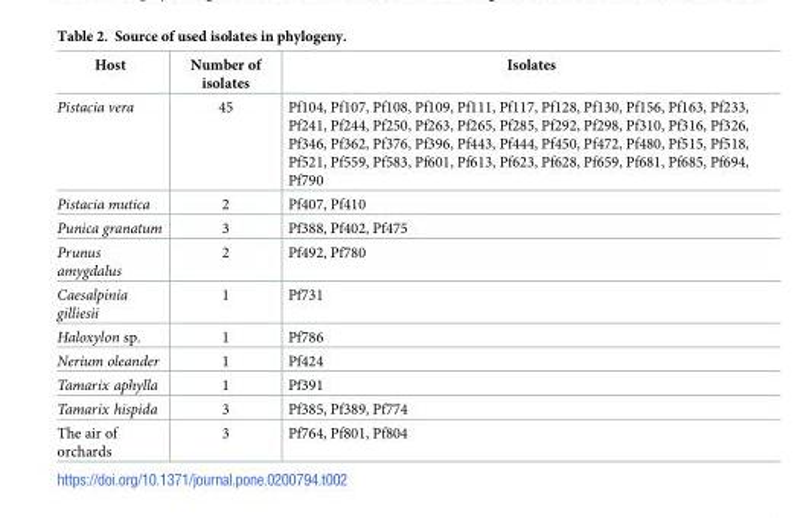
<table><thead><tr><td>Host</td><td>Number of isolates</td><td>Isolates</td></tr></thead><tbody><tr><td>Pistacia vera</td><td>45</td><td>Pf104, Pf107, Pf108, Pf109, Pf111, Pf117, Pf128, Pf130, Pf156, Pf163, Pf233, Pf241, Pf244, Pf250, Pf263, Pf265, Pf285, Pf292, Pf298, Pf310, Pf316, Pf326, Pf346, Pf362, Pf376, Pf396, Pf443, Pf444, Pf450, Pf472, Pf480, Pf515, Pf518, Pf521, Pf559, Pf583, Pf601, Pf613, Pf623, Pf628, Pf659, Pf681, Pf685, Pf694, Pf790</td></tr><tr><td>Pistacia mutica</td><td>2</td><td>Pf407, Pf410</td></tr><tr><td>Punica granatum</td><td>3</td><td>Pf388, Pf402, Pf475</td></tr><tr><td>Prunus amygdalus</td><td>2</td><td>Pf492, Pf780</td></tr><tr><td>Caesalpinia gilliesii</td><td>1</td><td>Pf731</td></tr><tr><td>Haloxylon sp.</td><td>1</td><td>Pf786</td></tr><tr><td>Nerium oleander</td><td>1</td><td>Pf424</td></tr><tr><td>Tamarix aphylla</td><td>1</td><td>Pf391</td></tr><tr><td>Tamarix hispida</td><td>3</td><td>Pf385, Pf389, Pf774</td></tr><tr><td>The air of orchards</td><td>3</td><td>Pf764, Pf801, Pf804</td></tr></tbody></table>